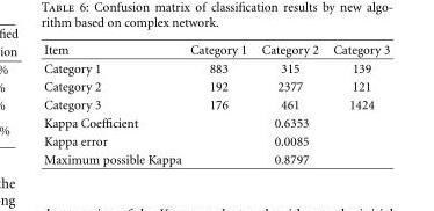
<table><thead><tr><td>Item</td><td>Category 1</td><td>Category 2</td><td>Category 3</td></tr></thead><tbody><tr><td>Category 1</td><td>883</td><td>315</td><td>139</td></tr><tr><td>Category 2</td><td>192</td><td>2377</td><td>121</td></tr><tr><td>Category 3</td><td>176</td><td>461</td><td>1424</td></tr><tr><td>Kappa Coefficient</td><td colspan="3">0.6353</td></tr><tr><td>Kappa error</td><td colspan="3">0.0085</td></tr><tr><td>Maximum possible Kappa</td><td colspan="3">0.8797</td></tr></tbody></table>